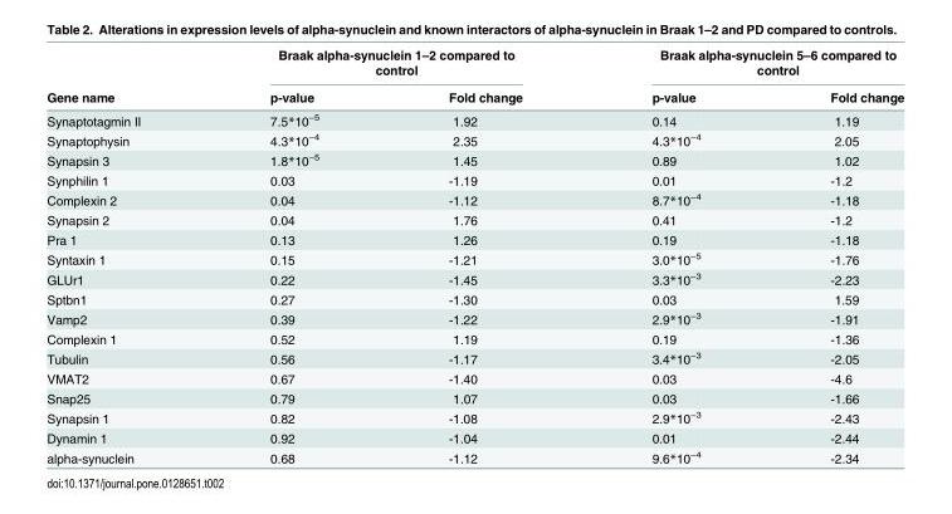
<table><thead><tr><td rowspan="2">Gene name</td><td colspan="2">Braak alpha-synuclein 1–2 compared to control</td><td colspan="2">Braak alpha-synuclein 5–6 compared to control</td></tr><tr><td>p-value</td><td>Fold change</td><td>p-value</td><td>Fold change</td></tr></thead><tbody><tr><td>Synaptotagmin II</td><td>7.5*10<sup>−5</sup></td><td>1.92</td><td>0.14</td><td>1.19</td></tr><tr><td>Synaptophysin</td><td>4.3*10<sup>−4</sup></td><td>2.35</td><td>4.3*10<sup>−4</sup></td><td>2.05</td></tr><tr><td>Synapsin 3</td><td>1.8*10<sup>−5</sup></td><td>1.45</td><td>0.89</td><td>1.02</td></tr><tr><td>Synphilin 1</td><td>0.03</td><td>-1.19</td><td>0.01</td><td>-1.2</td></tr><tr><td>Complexin 2</td><td>0.04</td><td>-1.12</td><td>8.7*10<sup>−4</sup></td><td>-1.18</td></tr><tr><td>Synapsin 2</td><td>0.04</td><td>1.76</td><td>0.41</td><td>-1.2</td></tr><tr><td>Pra 1</td><td>0.13</td><td>1.26</td><td>0.19</td><td>-1.18</td></tr><tr><td>Syntaxin 1</td><td>0.15</td><td>-1.21</td><td>3.0*10<sup>−5</sup></td><td>-1.76</td></tr><tr><td>GLUr1</td><td>0.22</td><td>-1.45</td><td>3.3*10<sup>−3</sup></td><td>-2.23</td></tr><tr><td>Sptbn1</td><td>0.27</td><td>-1.30</td><td>0.03</td><td>1.59</td></tr><tr><td>Vamp2</td><td>0.39</td><td>-1.22</td><td>2.9*10<sup>−3</sup></td><td>-1.91</td></tr><tr><td>Complexin 1</td><td>0.52</td><td>1.19</td><td>0.19</td><td>-1.36</td></tr><tr><td>Tubulin</td><td>0.56</td><td>-1.17</td><td>3.4*10<sup>−3</sup></td><td>-2.05</td></tr><tr><td>VMAT2</td><td>0.67</td><td>-1.40</td><td>0.03</td><td>-4.6</td></tr><tr><td>Snap25</td><td>0.79</td><td>1.07</td><td>0.03</td><td>-1.66</td></tr><tr><td>Synapsin 1</td><td>0.82</td><td>-1.08</td><td>2.9*10<sup>−3</sup></td><td>-2.43</td></tr><tr><td>Dynamin 1</td><td>0.92</td><td>-1.04</td><td>0.01</td><td>-2.44</td></tr><tr><td>alpha-synuclein</td><td>0.68</td><td>-1.12</td><td>9.6*10<sup>−4</sup></td><td>-2.34</td></tr></tbody></table>